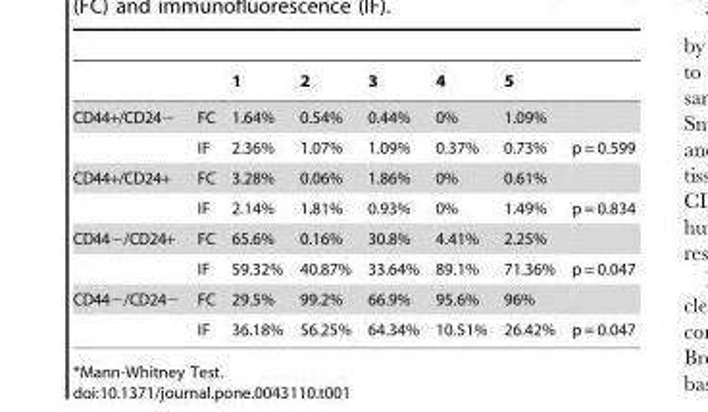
<table><thead><tr><td></td><td></td><td>1</td><td>2</td><td>3</td><td>4</td><td>5</td><td></td></tr></thead><tbody><tr><td rowspan="2">CD44+/CD24−</td><td>FC</td><td>1.64%</td><td>0.54%</td><td>0.44%</td><td>0%</td><td>1.09%</td><td></td></tr><tr><td>IF</td><td>2.36%</td><td>1.07%</td><td>1.09%</td><td>0.37%</td><td>0.73%</td><td>p = 0.599</td></tr><tr><td rowspan="2">CD44+/CD24+</td><td>FC</td><td>3.28%</td><td>0.06%</td><td>1.86%</td><td>0%</td><td>0.61%</td><td></td></tr><tr><td>IF</td><td>2.14%</td><td>1.81%</td><td>0.93%</td><td>0%</td><td>1.49%</td><td>p = 0.834</td></tr><tr><td rowspan="2">CD44−/CD24+</td><td>FC</td><td>65.6%</td><td>0.16%</td><td>30.8%</td><td>4.41%</td><td>2.25%</td><td></td></tr><tr><td>IF</td><td>59.32%</td><td>40.87%</td><td>33.64%</td><td>89.1%</td><td>71.36%</td><td>p = 0.047</td></tr><tr><td rowspan="2">CD44−/CD24−</td><td>FC</td><td>29.5%</td><td>99.2%</td><td>66.9%</td><td>95.6%</td><td>96%</td><td></td></tr><tr><td>IF</td><td>36.18%</td><td>56.25%</td><td>64.34%</td><td>10.51%</td><td>26.42%</td><td>p = 0.047</td></tr></tbody></table>